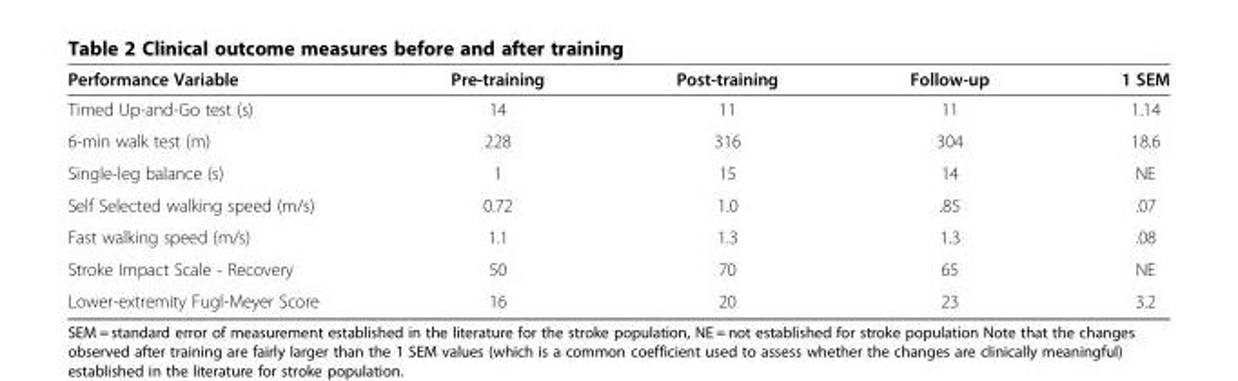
<table><thead><tr><td>Performance Variable</td><td>Pre-training</td><td>Post-training</td><td>Follow-up</td><td>1 SEM</td></tr></thead><tbody><tr><td>Timed Up-and-Go test (s)</td><td>14</td><td>11</td><td>11</td><td>1.14</td></tr><tr><td>6-min walk test (m)</td><td>228</td><td>316</td><td>304</td><td>18.6</td></tr><tr><td>Single-leg balance (s)</td><td>1</td><td>15</td><td>14</td><td>NE</td></tr><tr><td>Self Selected walking speed (m/s)</td><td>0.72</td><td>1.0</td><td>.85</td><td>.07</td></tr><tr><td>Fast walking speed (m/s)</td><td>1.1</td><td>1.3</td><td>1.3</td><td>.08</td></tr><tr><td>Stroke Impact Scale - Recovery</td><td>50</td><td>70</td><td>65</td><td>NE</td></tr><tr><td>Lower-extremity Fugl-Meyer Score</td><td>16</td><td>20</td><td>23</td><td>3.2</td></tr></tbody></table>